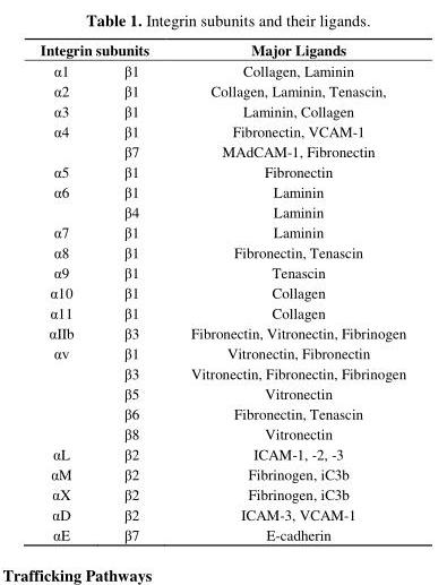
<table><thead><tr><td colspan="2">Integrin subunits</td><td rowspan="2">Major Ligands Collagen, Laminin</td></tr><tr><td>α1</td><td>β1</td></tr></thead><tbody><tr><td>α2</td><td>β1</td><td>Collagen, Laminin, Tenascin,</td></tr><tr><td>α3</td><td>β1</td><td>Laminin, Collagen</td></tr><tr><td rowspan="2">α4</td><td>β1</td><td>Fibronectin, VCAM-1</td></tr><tr><td>β7</td><td>MAdCAM-1, Fibronectin</td></tr><tr><td>α5</td><td>β1</td><td>Fibronectin</td></tr><tr><td rowspan="2">α6</td><td>β1</td><td>Laminin</td></tr><tr><td>β4</td><td>Laminin</td></tr><tr><td>α7</td><td>β1</td><td>Laminin</td></tr><tr><td>α8</td><td>β1</td><td>Fibronectin, Tenascin</td></tr><tr><td>α9</td><td>β1</td><td>Tenascin</td></tr><tr><td>α10</td><td>β1</td><td>Collagen</td></tr><tr><td>α11</td><td>β1</td><td>Collagen</td></tr><tr><td>αIIb</td><td>β3</td><td>Fibronectin, Vitronectin, Fibrinogen</td></tr><tr><td rowspan="5">αv</td><td>β1</td><td>Vitronectin, Fibronectin</td></tr><tr><td>β3</td><td>Vitronectin, Fibronectin, Fibrinogen</td></tr><tr><td>β5</td><td>Vitronectin</td></tr><tr><td>β6</td><td>Fibronectin, Tenascin</td></tr><tr><td>β8</td><td>Vitronectin</td></tr><tr><td>αL</td><td>β2</td><td>ICAM-1, -2, -3</td></tr><tr><td>αM</td><td>β2</td><td>Fibrinogen, iC3b</td></tr><tr><td>αX</td><td>β2</td><td>Fibrinogen, iC3b</td></tr><tr><td>αD</td><td>β2</td><td>ICAM-3, VCAM-1</td></tr><tr><td>αE</td><td>β7</td><td>E-cadherin</td></tr></tbody></table>